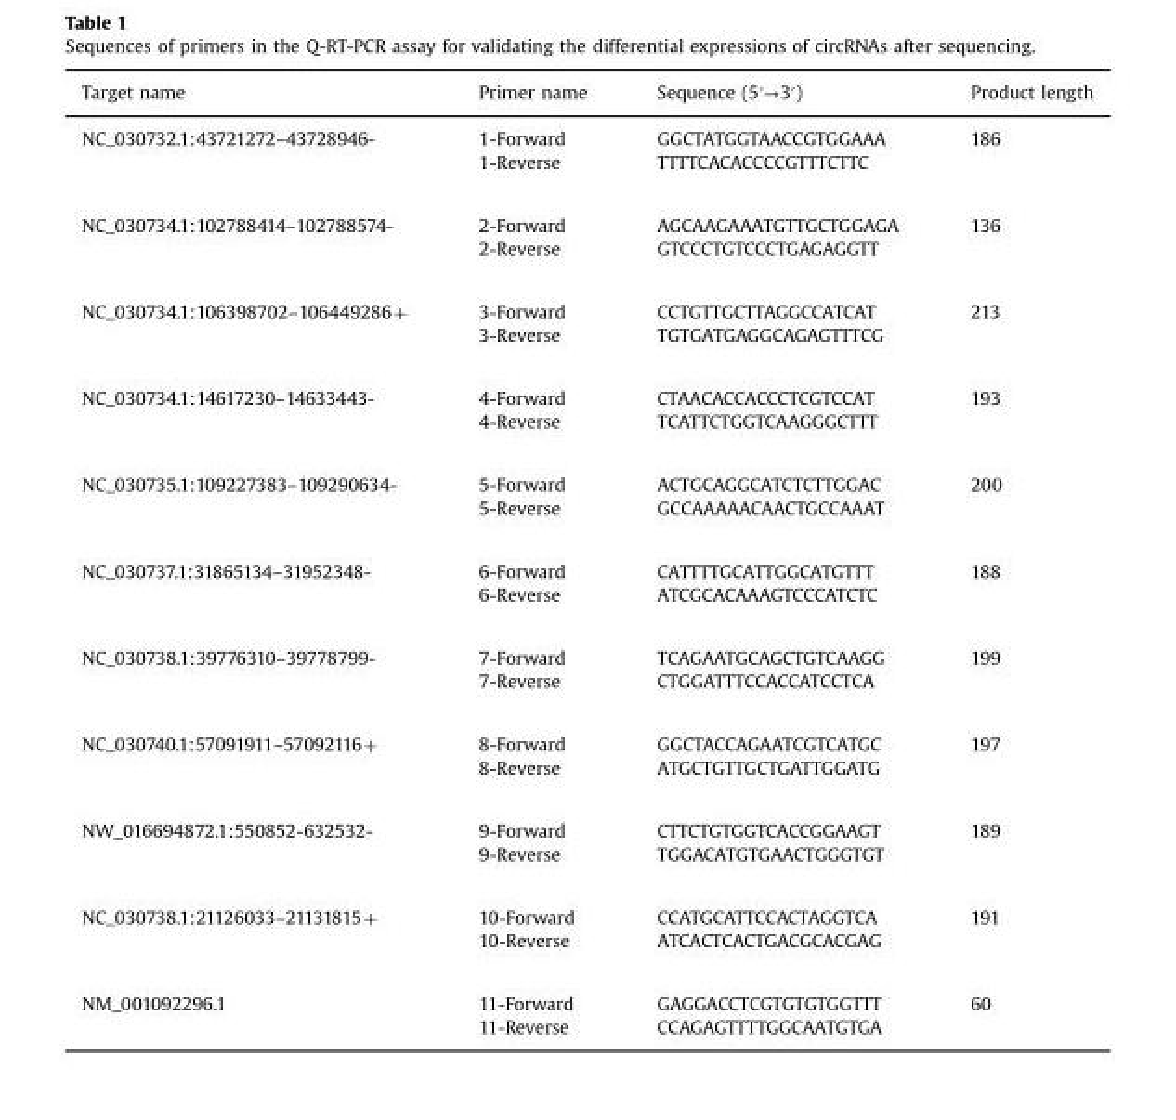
<table><thead><tr><td>Target name</td><td>Primer name</td><td>Sequence (5′→3′)</td><td>Product length</td></tr></thead><tbody><tr><td rowspan="2">NC_030732.1:43721272–43728946-</td><td>1-Forward</td><td>GGCTATGGTAACCGTGGAAA</td><td rowspan="2">186</td></tr><tr><td>1-Reverse</td><td>TTTTCACACCCCGTTTCTTC</td></tr><tr><td rowspan="2">NC_030734.1:102788414–102788574-</td><td>2-Forward</td><td>AGCAAGAAATGTTGCTGGAGA</td><td rowspan="2">136</td></tr><tr><td>2-Reverse</td><td>GTCCCTGTCCCTGAGAGGTT</td></tr><tr><td rowspan="2">NC_030734.1:106398702–106449286+</td><td>3-Forward</td><td>CCTGTTGCTTAGGCCATCAT</td><td rowspan="2">213</td></tr><tr><td>3-Reverse</td><td>TGTGATGAGGCAGAGTTTCG</td></tr><tr><td rowspan="2">NC_030734.1:14617230–14633443-</td><td>4-Forward</td><td>CTAACACCACCCTCGTCCAT</td><td rowspan="2">193</td></tr><tr><td>4-Reverse</td><td>TCATTCTGGTCAAGGGCTTT</td></tr><tr><td rowspan="2">NC_030735.1:109227383–109290634-</td><td>5-Forward</td><td>ACTGCAGGCATCTCTTGGAC</td><td rowspan="2">200</td></tr><tr><td>5-Reverse</td><td>GCCAAAAACAACTGCCAAAT</td></tr><tr><td rowspan="2">NC_030737.1:31865134–31952348-</td><td>6-Forward</td><td>CATTTTGCATTGGCATGTTT</td><td rowspan="2">188</td></tr><tr><td>6-Reverse</td><td>ATCGCACAAAGTCCCATCTC</td></tr><tr><td rowspan="2">NC_030738.1:39776310–39778799-</td><td>7-Forward</td><td>TCAGAATGCAGCTGTCAAGG</td><td rowspan="2">199</td></tr><tr><td>7-Reverse</td><td>CTGGATTTCCACCATCCTCA</td></tr><tr><td rowspan="2">NC_030740.1:57091911–57092116+</td><td>8-Forward</td><td>GGCTACCAGAATCGTCATGC</td><td rowspan="2">197</td></tr><tr><td>8-Reverse</td><td>ATGCTGTTGCTGATTGGATG</td></tr><tr><td rowspan="2">NW_016694872.1:550852-632532-</td><td>9-Forward</td><td>CTTCTGTGGTCACCGGAAGT</td><td rowspan="2">189</td></tr><tr><td>9-Reverse</td><td>TGGACATGTGAACTGGGTGT</td></tr><tr><td rowspan="2">NC_030738.1:21126033–21131815+</td><td>10-Forward</td><td>CCATGCATTCCACTAGGTCA</td><td rowspan="2">191</td></tr><tr><td>10-Reverse</td><td>ATCACTCACTGACGCACGAG</td></tr><tr><td rowspan="2">NM_001092296.1</td><td>11-Forward</td><td>GAGGACCTCGTGTGTGGTTT</td><td rowspan="2">60</td></tr><tr><td>11-Reverse</td><td>CCAGAGTTTTGGCAATGTGA</td></tr></tbody></table>